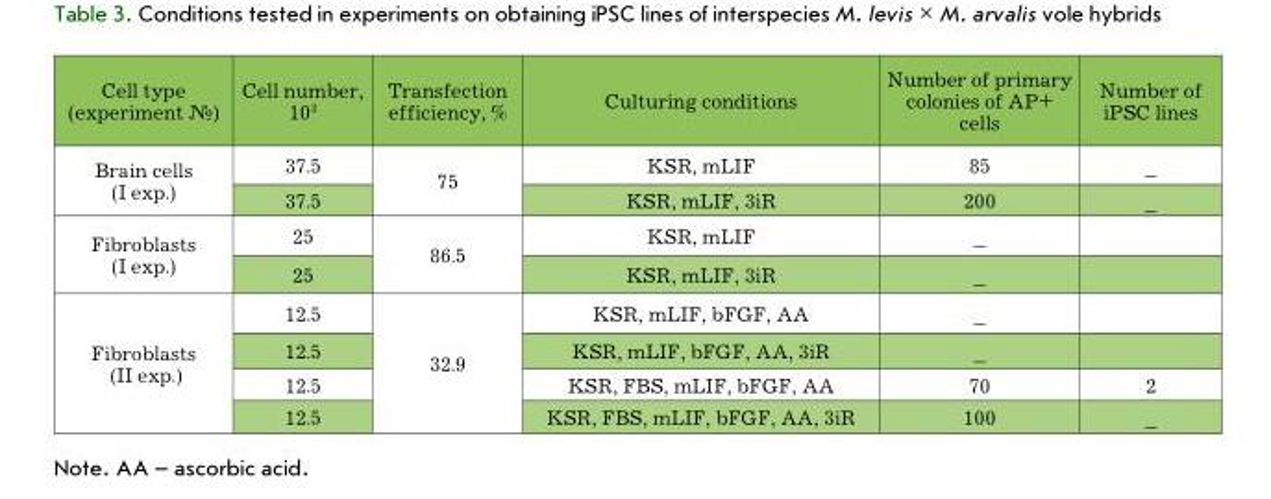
<table><thead><tr><td>Cell type (experiment №)</td><td>Cell number, 10<sup>3</sup></td><td>Transfection efficiency, %</td><td>Culturing conditions</td><td>Number of primary colonies of AP+ cells</td><td>Number of iPSC lines</td></tr></thead><tbody><tr><td rowspan="2">Brain cells (I exp.)</td><td>37.5</td><td rowspan="2">75</td><td>KSR, mLIF</td><td>85</td><td>_</td></tr><tr><td>37.5</td><td>KSR, mLIF, 3iR</td><td>200</td><td>_</td></tr><tr><td rowspan="2">Fibroblasts (I exp.)</td><td>25</td><td rowspan="2">86.5</td><td>KSR, mLIF</td><td>_</td><td></td></tr><tr><td>25</td><td>KSR, mLIF, 3iR</td><td>_</td><td></td></tr><tr><td rowspan="4">Fibroblasts (II exp.)</td><td>12.5</td><td rowspan="4">32.9</td><td>KSR, mLIF, bFGF, AA</td><td>_</td><td></td></tr><tr><td>12.5</td><td>KSR, mLIF, bFGF, AA, 3iR</td><td>_</td><td></td></tr><tr><td>12.5</td><td>KSR, FBS, mLIF, bFGF, AA</td><td>70</td><td>2</td></tr><tr><td>12.5</td><td>KSR, FBS, mLIF, bFGF, AA, 3iR</td><td>100</td><td>_</td></tr></tbody></table>